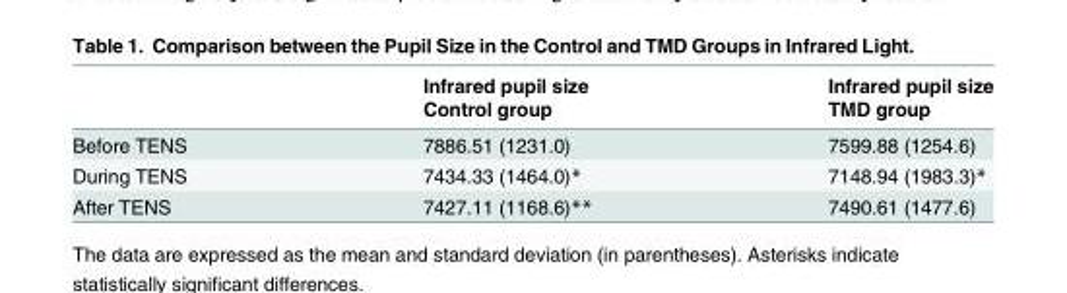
<table><thead><tr><td rowspan="2"></td><td rowspan="2">Infrared pupil size Control group</td><td rowspan="2">Infrared pupil size TMD group</td></tr><tr></tr></thead><tbody><tr><td>Before TENS</td><td>7886.51 (1231.0)</td><td>7599.88 (1254.6)</td></tr><tr><td>During TENS</td><td>7434.33 (1464.0)*</td><td>7148.94 (1983.3)*</td></tr><tr><td>After TENS</td><td>7427.11 (1168.6)**</td><td>7490.61 (1477.6)</td></tr></tbody></table>